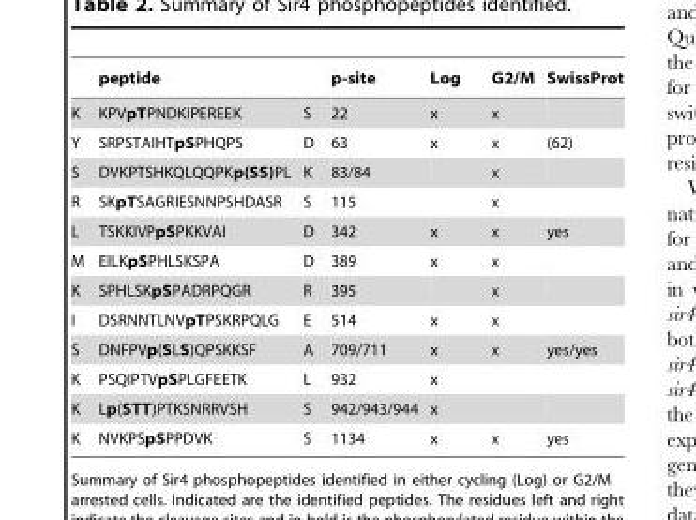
<table><thead><tr><td></td><td>peptide</td><td></td><td>p-site</td><td>Log</td><td>G2/M</td><td>SwissProt</td></tr></thead><tbody><tr><td>K</td><td>KPVpTPNDKIPEREEK</td><td>S</td><td>22</td><td>x</td><td>x</td><td></td></tr><tr><td>Y</td><td>SRPSTAIHTpSPHQPS</td><td>D</td><td>63</td><td>x</td><td>x</td><td>(62)</td></tr><tr><td>S</td><td>DVKPTSHKQLQQPKp(SS)PL</td><td>K</td><td>83/84</td><td></td><td>x</td><td></td></tr><tr><td>R</td><td>SKpTSAGRIESNNPSHDASR</td><td>S</td><td>115</td><td></td><td>x</td><td></td></tr><tr><td>L</td><td>TSKKIVPpSPKKVAI</td><td>D</td><td>342</td><td>x</td><td>x</td><td>yes</td></tr><tr><td>M</td><td>EILKpSPHLSKSPA</td><td>D</td><td>389</td><td>x</td><td>x</td><td></td></tr><tr><td>K</td><td>SPHLSKpSPADRPQGR</td><td>R</td><td>395</td><td></td><td>x</td><td></td></tr><tr><td>I</td><td>DSRNNTLNVpTPSKRPQLG</td><td>E</td><td>514</td><td>x</td><td>x</td><td></td></tr><tr><td>S</td><td>DNFPVp(SLS)QPSKKSF</td><td>A</td><td>709/711</td><td>x</td><td>x</td><td>yes/yes</td></tr><tr><td>K</td><td>PSQIPTVpSPLGFEETK</td><td>L</td><td>932</td><td>x</td><td></td><td></td></tr><tr><td>K</td><td>Lp(STT)PTKSNRRVSH</td><td>S</td><td>942/943/944</td><td>x</td><td></td><td></td></tr><tr><td>K</td><td>NVKPSpSPPDVK</td><td>S</td><td>1134</td><td>x</td><td>x</td><td>yes</td></tr></tbody></table>